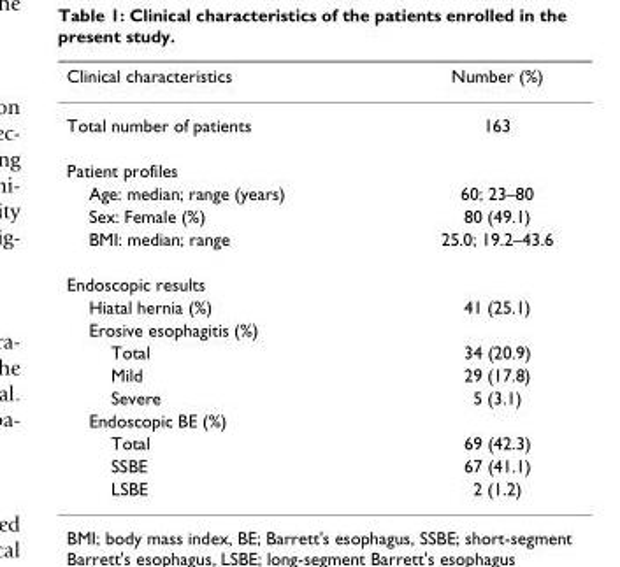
<table><thead><tr><td>Clinical characteristics</td><td>Number (%)</td></tr></thead><tbody><tr><td>Total number of patients</td><td>163</td></tr><tr><td colspan="2">Patient profiles</td></tr><tr><td>Age: median; range (years)</td><td>60; 23–80</td></tr><tr><td>Sex: Female (%)</td><td>80 (49.1)</td></tr><tr><td>BMI: median; range</td><td>25.0; 19.2–43.6</td></tr><tr><td colspan="2">Endoscopic results</td></tr><tr><td>Hiatal hernia (%)</td><td>41 (25.1)</td></tr><tr><td colspan="2">Erosive esophagitis (%)</td></tr><tr><td>Total</td><td>34 (20.9)</td></tr><tr><td>Mild</td><td>29 (17.8)</td></tr><tr><td>Severe</td><td>5 (3.1)</td></tr><tr><td colspan="2">Endoscopic BE (%)</td></tr><tr><td>Total</td><td>69 (42.3)</td></tr><tr><td>SSBE</td><td>67 (41.1)</td></tr><tr><td>LSBE</td><td>2 (1.2)</td></tr></tbody></table>